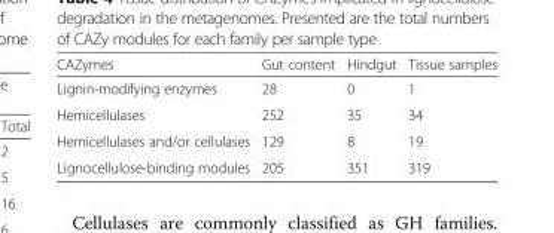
<table><thead><tr><td>CAZymes</td><td>Gut content</td><td>Hindgut</td><td>Tissue samples</td></tr></thead><tbody><tr><td>Lignin-modifying enzymes</td><td>28</td><td>0</td><td>1</td></tr><tr><td>Hemicellulases</td><td>252</td><td>35</td><td>34</td></tr><tr><td>Hemicellulases and/or cellulases</td><td>129</td><td>8</td><td>19</td></tr><tr><td>Lignocellulose-binding modules</td><td>205</td><td>351</td><td>319</td></tr></tbody></table>